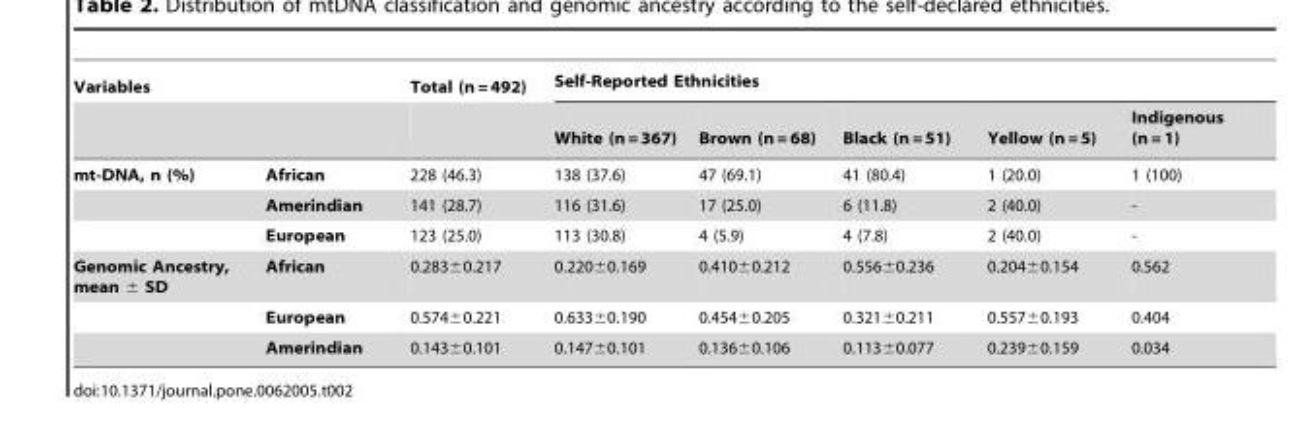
<table><thead><tr><td colspan="2">Variables</td><td rowspan="2">Total (n = 492)</td><td colspan="5">Self-Reported Ethnicities</td></tr><tr><td></td><td></td><td>White (n = 367)</td><td>Brown (n = 68)</td><td>Black (n = 51)</td><td>Yellow (n = 5)</td><td>Indigenous (n = 1)</td></tr></thead><tbody><tr><td rowspan="3">mt-DNA, n (%)</td><td>African</td><td>228 (46.3)</td><td>138 (37.6)</td><td>47 (69.1)</td><td>41 (80.4)</td><td>1 (20.0)</td><td>1 (100)</td></tr><tr><td>Amerindian</td><td>141 (28.7)</td><td>116 (31.6)</td><td>17 (25.0)</td><td>6 (11.8)</td><td>2 (40.0)</td><td>-</td></tr><tr><td>European</td><td>123 (25.0)</td><td>113 (30.8)</td><td>4 (5.9)</td><td>4 (7.8)</td><td>2 (40.0)</td><td>-</td></tr><tr><td rowspan="3">Genomic Ancestry, mean ± SD</td><td>African</td><td>0.283±0.217</td><td>0.220±0.169</td><td>0.410±0.212</td><td>0.556±0.236</td><td>0.204±0.154</td><td>0.562</td></tr><tr><td>European</td><td>0.574±0.221</td><td>0.633±0.190</td><td>0.454±0.205</td><td>0.321±0.211</td><td>0.557±0.193</td><td>0.404</td></tr><tr><td>Amerindian</td><td>0.143±0.101</td><td>0.147±0.101</td><td>0.136±0.106</td><td>0.113±0.077</td><td>0.239±0.159</td><td>0.034</td></tr></tbody></table>